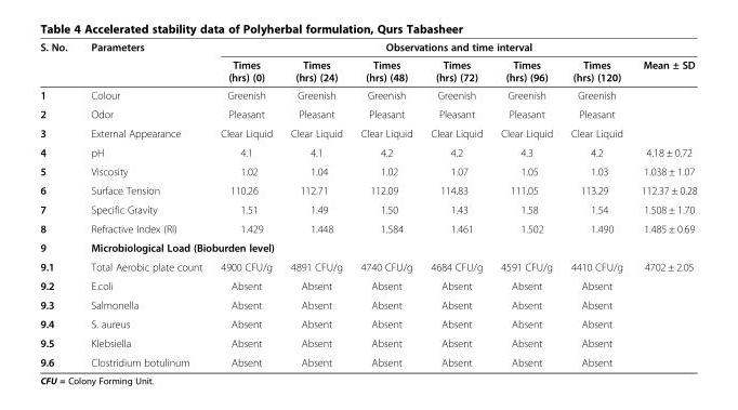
<table><thead><tr><td rowspan="2">S. No.</td><td rowspan="2">Parameters</td><td colspan="7">Observations and time interval</td></tr><tr><td>Times (hrs) (0)</td><td>Times (hrs) (24)</td><td>Times (hrs) (48)</td><td>Times (hrs) (72)</td><td>Times (hrs) (96)</td><td>Times (hrs) (120)</td><td>Mean ± SD</td></tr></thead><tbody><tr><td>1</td><td>Colour</td><td>Greenish</td><td>Greenish</td><td>Greenish</td><td>Greenish</td><td>Greenish</td><td>Greenish</td><td></td></tr><tr><td>2</td><td>Odor</td><td>Pleasant</td><td>Pleasant</td><td>Pleasant</td><td>Pleasant</td><td>Pleasant</td><td>Pleasant</td><td></td></tr><tr><td>3</td><td>External Appearance</td><td>Clear Liquid</td><td>Clear Liquid</td><td>Clear Liquid</td><td>Clear Liquid</td><td>Clear Liquid</td><td>Clear Liquid</td><td></td></tr><tr><td>4</td><td>pH</td><td>4.1</td><td>4.1</td><td>4.2</td><td>4.2</td><td>4.3</td><td>4.2</td><td>4.18 ± 0.72</td></tr><tr><td>5</td><td>Viscosity</td><td>1.02</td><td>1.04</td><td>1.02</td><td>1.07</td><td>1.05</td><td>1.03</td><td>1.038 ± 1.07</td></tr><tr><td>6</td><td>Surface Tension</td><td>110.26</td><td>112.71</td><td>112.09</td><td>114.83</td><td>111.05</td><td>113.29</td><td>112.37 ± 0.28</td></tr><tr><td>7</td><td>Specific Gravity</td><td>1.51</td><td>1.49</td><td>1.50</td><td>1.43</td><td>1.58</td><td>1.54</td><td>1.508 ± 1.70</td></tr><tr><td>8</td><td>Refractive Index (RI)</td><td>1.429</td><td>1.448</td><td>1.584</td><td>1.461</td><td>1.502</td><td>1.490</td><td>1.485 ± 0.69</td></tr><tr><td>9</td><td colspan="8">Microbiological Load (Bioburden level)</td></tr><tr><td>9.1</td><td>Total Aerobic plate count</td><td>4900 CFU/g</td><td>4891 CFU/g</td><td>4740 CFU/g</td><td>4684 CFU/g</td><td>4591 CFU/g</td><td>4410 CFU/g</td><td>4702 ± 2.05</td></tr><tr><td>9.2</td><td>E.coli</td><td>Absent</td><td>Absent</td><td>Absent</td><td>Absent</td><td>Absent</td><td>Absent</td><td></td></tr><tr><td>9.3</td><td>Salmonella</td><td>Absent</td><td>Absent</td><td>Absent</td><td>Absent</td><td>Absent</td><td>Absent</td><td></td></tr><tr><td>9.4</td><td>S. aureus</td><td>Absent</td><td>Absent</td><td>Absent</td><td>Absent</td><td>Absent</td><td>Absent</td><td></td></tr><tr><td>9.5</td><td>Klebsiella</td><td>Absent</td><td>Absent</td><td>Absent</td><td>Absent</td><td>Absent</td><td>Absent</td><td></td></tr><tr><td>9.6</td><td>Clostridium botulinum</td><td>Absent</td><td>Absent</td><td>Absent</td><td>Absent</td><td>Absent</td><td>Absent</td><td></td></tr></tbody></table>